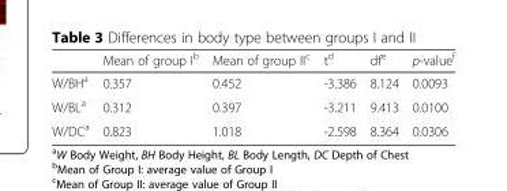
<table><thead><tr><td></td><td>Mean of group I<sup>b</sup></td><td>Mean of group II<sup>c</sup></td><td>t<sup>d</sup></td><td>df<sup>e</sup></td><td>p-value<sup>f</sup></td></tr></thead><tbody><tr><td>W/BH<sup>a</sup></td><td>0.357</td><td>0.452</td><td>-3.386</td><td>8.124</td><td>0.0093</td></tr><tr><td>W/BL<sup>a</sup></td><td>0.312</td><td>0.397</td><td>-3.211</td><td>9.413</td><td>0.0100</td></tr><tr><td>W/DC<sup>a</sup></td><td>0.823</td><td>1.018</td><td>-2.598</td><td>8.364</td><td>0.0306</td></tr></tbody></table>